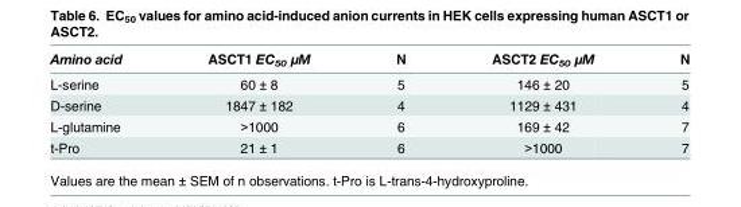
<table><thead><tr><td>Amino acid</td><td>ASCT1 EC<sub>50</sub> μM</td><td>N</td><td>ASCT2 EC<sub>50</sub> μM</td><td>N</td></tr></thead><tbody><tr><td>L-serine</td><td>60 ± 8</td><td>5</td><td>146 ± 20</td><td>5</td></tr><tr><td>D-serine</td><td>1847 ± 182</td><td>4</td><td>1129 ± 431</td><td>4</td></tr><tr><td>L-glutamine</td><td>&gt;1000</td><td>6</td><td>169 ± 42</td><td>7</td></tr><tr><td>t-Pro</td><td>21 ± 1</td><td>6</td><td>&gt;1000</td><td>7</td></tr></tbody></table>